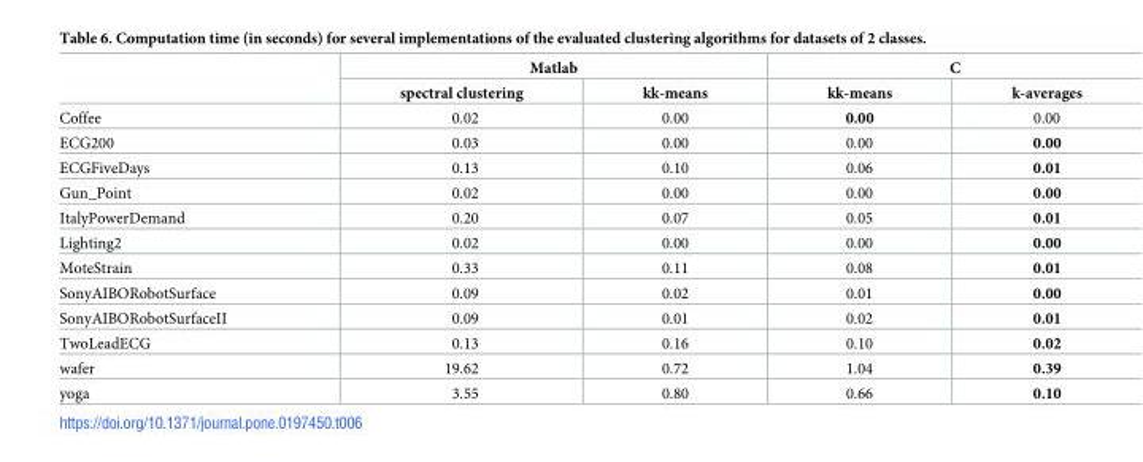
<table><thead><tr><td rowspan="2"></td><td colspan="2">Matlab</td><td colspan="2">C</td></tr><tr><td>spectral clustering</td><td>kk-means</td><td>kk-means</td><td>k-averages</td></tr></thead><tbody><tr><td>Coffee</td><td>0.02</td><td>0.00</td><td>0.00</td><td>0.00</td></tr><tr><td>ECG200</td><td>0.03</td><td>0.00</td><td>0.00</td><td>0.00</td></tr><tr><td>ECGFiveDays</td><td>0.13</td><td>0.10</td><td>0.06</td><td>0.01</td></tr><tr><td>Gun_Point</td><td>0.02</td><td>0.00</td><td>0.00</td><td>0.00</td></tr><tr><td>ItalyPowerDemand</td><td>0.20</td><td>0.07</td><td>0.05</td><td>0.01</td></tr><tr><td>Lighting2</td><td>0.02</td><td>0.00</td><td>0.00</td><td>0.00</td></tr><tr><td>MoteStrain</td><td>0.33</td><td>0.11</td><td>0.08</td><td>0.01</td></tr><tr><td>SonyAIBORobotSurface</td><td>0.09</td><td>0.02</td><td>0.01</td><td>0.00</td></tr><tr><td>SonyAIBORobotSurfaceII</td><td>0.09</td><td>0.01</td><td>0.02</td><td>0.01</td></tr><tr><td>TwoLeadECG</td><td>0.13</td><td>0.16</td><td>0.10</td><td>0.02</td></tr><tr><td>wafer</td><td>19.62</td><td>0.72</td><td>1.04</td><td>0.39</td></tr><tr><td>yoga</td><td>3.55</td><td>0.80</td><td>0.66</td><td>0.10</td></tr></tbody></table>